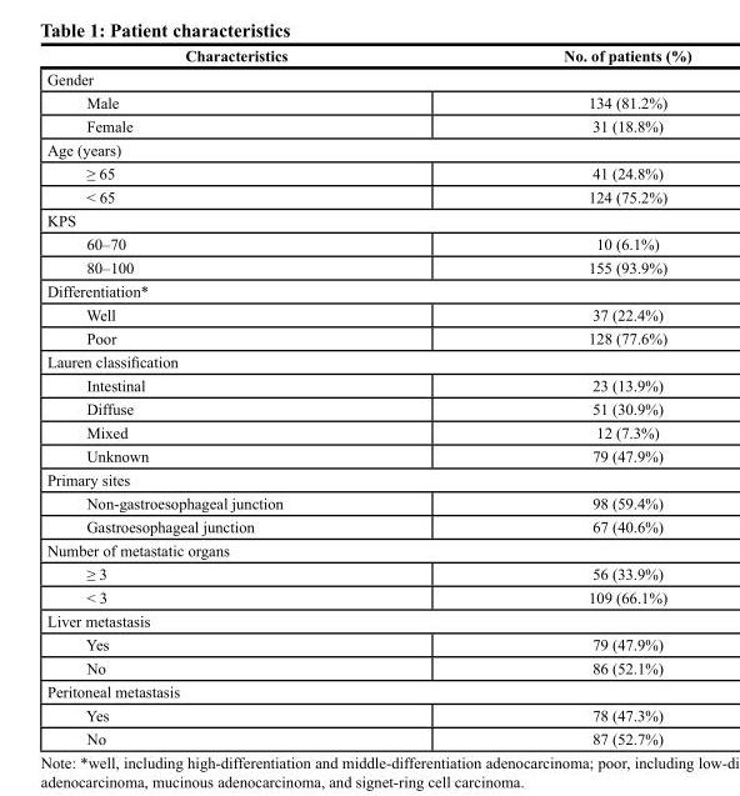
<table><thead><tr><td>characteristics</td><td>no. of patients (%)</td></tr></thead><tbody><tr><td colspan="2">Gender</td></tr><tr><td>Male</td><td>134 (81.2%)</td></tr><tr><td>Female</td><td>31 (18.8%)</td></tr><tr><td colspan="2">Age (years)</td></tr><tr><td>≥ 65</td><td>41 (24.8%)</td></tr><tr><td>&lt; 65</td><td>124 (75.2%)</td></tr><tr><td colspan="2">KPS</td></tr><tr><td>60–70</td><td>10 (6.1%)</td></tr><tr><td>80–100</td><td>155 (93.9%)</td></tr><tr><td colspan="2">Differentiation*</td></tr><tr><td>Well</td><td>37 (22.4%)</td></tr><tr><td>Poor</td><td>128 (77.6%)</td></tr><tr><td colspan="2">Lauren classification</td></tr><tr><td>Intestinal</td><td>23 (13.9%)</td></tr><tr><td>Diffuse</td><td>51 (30.9%)</td></tr><tr><td>Mixed</td><td>12 (7.3%)</td></tr><tr><td>Unknown</td><td>79 (47.9%)</td></tr><tr><td colspan="2">Primary sites</td></tr><tr><td>Non-gastroesophageal junction</td><td>98 (59.4%)</td></tr><tr><td>Gastroesophageal junction</td><td>67 (40.6%)</td></tr><tr><td colspan="2">Number of metastatic organs</td></tr><tr><td>≥ 3</td><td>56 (33.9%)</td></tr><tr><td>&lt; 3</td><td>109 (66.1%)</td></tr><tr><td colspan="2">Liver metastasis</td></tr><tr><td>Yes</td><td>79 (47.9%)</td></tr><tr><td>No</td><td>86 (52.1%)</td></tr><tr><td colspan="2">Peritoneal metastasis</td></tr><tr><td>Yes</td><td>78 (47.3%)</td></tr><tr><td>No</td><td>87 (52.7%)</td></tr></tbody></table>